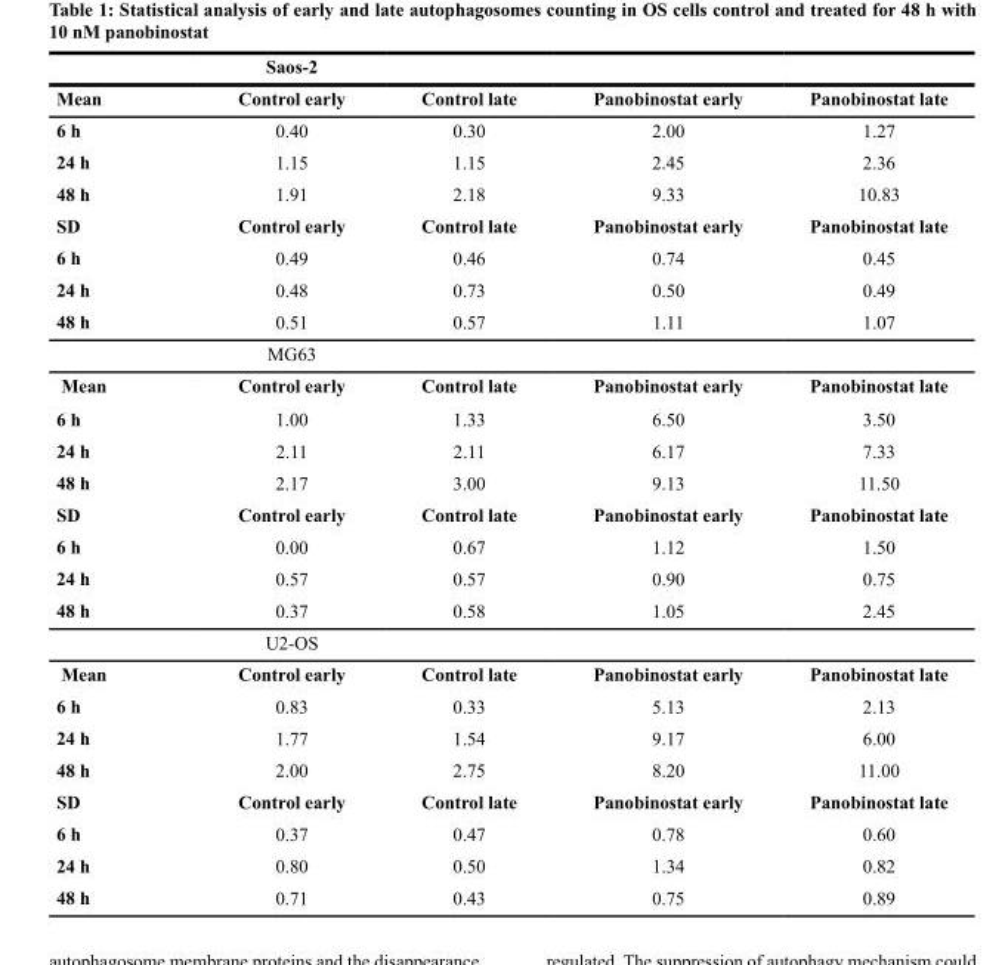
<table><thead><tr><td rowspan="2">Mean</td><td rowspan="2">Saos-2 Control early</td><td rowspan="2">Control late</td><td rowspan="2">Panobinostat early</td><td rowspan="2">Panobinostat late</td></tr><tr></tr></thead><tbody><tr><td>6 h</td><td>0.40</td><td>0.30</td><td>2.00</td><td>1.27</td></tr><tr><td>24 h</td><td>1.15</td><td>1.15</td><td>2.45</td><td>2.36</td></tr><tr><td>48 h</td><td>1.91</td><td>2.18</td><td>9.33</td><td>10.83</td></tr><tr><td>SD</td><td>Control early</td><td>Control late</td><td>Panobinostat early</td><td>Panobinostat late</td></tr><tr><td>6 h</td><td>0.49</td><td>0.46</td><td>0.74</td><td>0.45</td></tr><tr><td>24 h</td><td>0.48</td><td>0.73</td><td>0.50</td><td>0.49</td></tr><tr><td rowspan="2">48 h</td><td>0.51</td><td>0.57</td><td>1.11</td><td>1.07</td></tr><tr><td>MG63</td><td></td><td></td><td></td></tr><tr><td>Mean</td><td>Control early</td><td>Control late</td><td>Panobinostat early</td><td>Panobinostat late</td></tr><tr><td>6 h</td><td>1.00</td><td>1.33</td><td>6.50</td><td>3.50</td></tr><tr><td>24 h</td><td>2.11</td><td>2.11</td><td>6.17</td><td>7.33</td></tr><tr><td>48 h</td><td>2.17</td><td>3.00</td><td>9.13</td><td>11.50</td></tr><tr><td>SD</td><td>Control early</td><td>Control late</td><td>Panobinostat early</td><td>Panobinostat late</td></tr><tr><td>6 h</td><td>0.00</td><td>0.67</td><td>1.12</td><td>1.50</td></tr><tr><td>24 h</td><td>0.57</td><td>0.57</td><td>0.90</td><td>0.75</td></tr><tr><td rowspan="2">48 h</td><td>0.37</td><td>0.58</td><td>1.05</td><td>2.45</td></tr><tr><td>U2-OS</td><td></td><td></td><td></td></tr><tr><td>Mean</td><td>Control early</td><td>Control late</td><td>Panobinostat early</td><td>Panobinostat late</td></tr><tr><td>6 h</td><td>0.83</td><td>0.33</td><td>5.13</td><td>2.13</td></tr><tr><td>24 h</td><td>1.77</td><td>1.54</td><td>9.17</td><td>6.00</td></tr><tr><td>48 h</td><td>2.00</td><td>2.75</td><td>8.20</td><td>11.00</td></tr><tr><td>SD</td><td>Control early</td><td>Control late</td><td>Panobinostat early</td><td>Panobinostat late</td></tr><tr><td>6 h</td><td>0.37</td><td>0.47</td><td>0.78</td><td>0.60</td></tr><tr><td>24 h</td><td>0.80</td><td>0.50</td><td>1.34</td><td>0.82</td></tr><tr><td>48 h</td><td>0.71</td><td>0.43</td><td>0.75</td><td>0.89</td></tr></tbody></table>